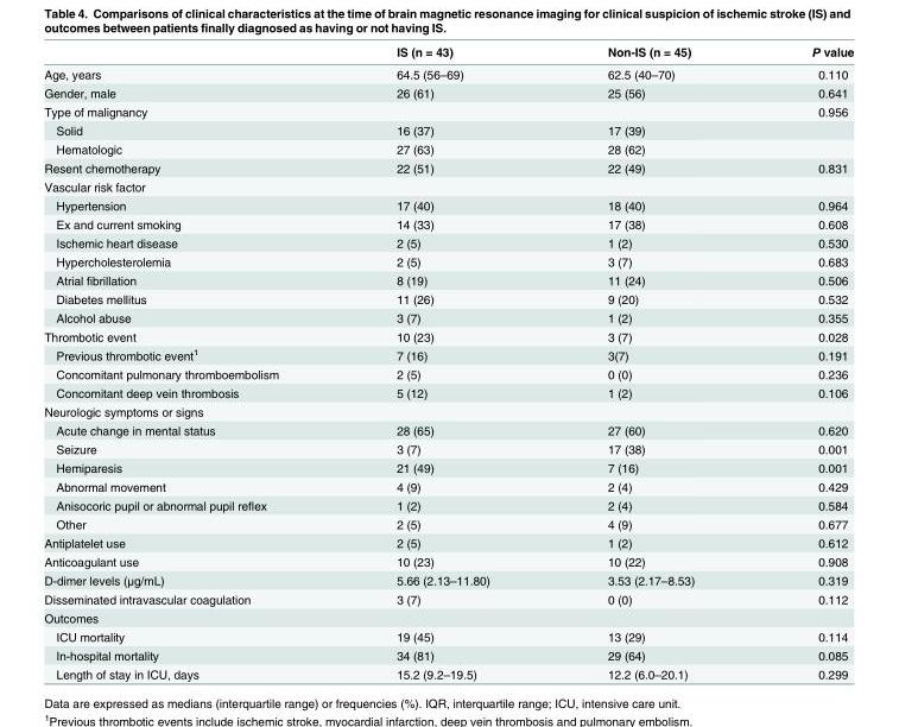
<table><thead><tr><td></td><td>IS (n = 43)</td><td>Non-IS (n = 45)</td><td>P value</td></tr></thead><tbody><tr><td>Age, years</td><td>64.5 (56–69)</td><td>62.5 (40–70)</td><td>0.110</td></tr><tr><td>Gender, male</td><td>26 (61)</td><td>25 (56)</td><td>0.641</td></tr><tr><td>Type of malignancy</td><td></td><td></td><td>0.956</td></tr><tr><td>Solid</td><td>16 (37)</td><td>17 (39)</td><td></td></tr><tr><td>Hematologic</td><td>27 (63)</td><td>28 (62)</td><td></td></tr><tr><td>Resent chemotherapy</td><td>22 (51)</td><td>22 (49)</td><td>0.831</td></tr><tr><td colspan="4">Vascular risk factor</td></tr><tr><td>Hypertension</td><td>17 (40)</td><td>18 (40)</td><td>0.964</td></tr><tr><td>Ex and current smoking</td><td>14 (33)</td><td>17 (38)</td><td>0.608</td></tr><tr><td>Ischemic heart disease</td><td>2 (5)</td><td>1 (2)</td><td>0.530</td></tr><tr><td>Hypercholesterolemia</td><td>2 (5)</td><td>3 (7)</td><td>0.683</td></tr><tr><td>Atrial fibrillation</td><td>8 (19)</td><td>11 (24)</td><td>0.506</td></tr><tr><td>Diabetes mellitus</td><td>11 (26)</td><td>9 (20)</td><td>0.532</td></tr><tr><td>Alcohol abuse</td><td>3 (7)</td><td>1 (2)</td><td>0.355</td></tr><tr><td>Thrombotic event</td><td>10 (23)</td><td>3 (7)</td><td>0.028</td></tr><tr><td>Previous thrombotic event<sup>1</sup></td><td>7 (16)</td><td>3(7)</td><td>0.191</td></tr><tr><td>Concomitant pulmonary thromboembolism</td><td>2 (5)</td><td>0 (0)</td><td>0.236</td></tr><tr><td>Concomitant deep vein thrombosis</td><td>5 (12)</td><td>1 (2)</td><td>0.106</td></tr><tr><td colspan="4">Neurologic symptoms or signs</td></tr><tr><td>Acute change in mental status</td><td>28 (65)</td><td>27 (60)</td><td>0.620</td></tr><tr><td>Seizure</td><td>3 (7)</td><td>17 (38)</td><td>0.001</td></tr><tr><td>Hemiparesis</td><td>21 (49)</td><td>7 (16)</td><td>0.001</td></tr><tr><td>Abnormal movement</td><td>4 (9)</td><td>2 (4)</td><td>0.429</td></tr><tr><td>Anisocoric pupil or abnormal pupil reflex</td><td>1 (2)</td><td>2 (4)</td><td>0.584</td></tr><tr><td>Other</td><td>2 (5)</td><td>4 (9)</td><td>0.677</td></tr><tr><td>Antiplatelet use</td><td>2 (5)</td><td>1 (2)</td><td>0.612</td></tr><tr><td>Anticoagulant use</td><td>10 (23)</td><td>10 (22)</td><td>0.908</td></tr><tr><td>D-dimer levels (μg/mL)</td><td>5.66 (2.13–11.80)</td><td>3.53 (2.17–8.53)</td><td>0.319</td></tr><tr><td>Disseminated intravascular coagulation</td><td>3 (7)</td><td>0 (0)</td><td>0.112</td></tr><tr><td colspan="4">Outcomes</td></tr><tr><td>ICU mortality</td><td>19 (45)</td><td>13 (29)</td><td>0.114</td></tr><tr><td>In-hospital mortality</td><td>34 (81)</td><td>29 (64)</td><td>0.085</td></tr><tr><td>Length of stay in ICU, days</td><td>15.2 (9.2–19.5)</td><td>12.2 (6.0–20.1)</td><td>0.299</td></tr></tbody></table>